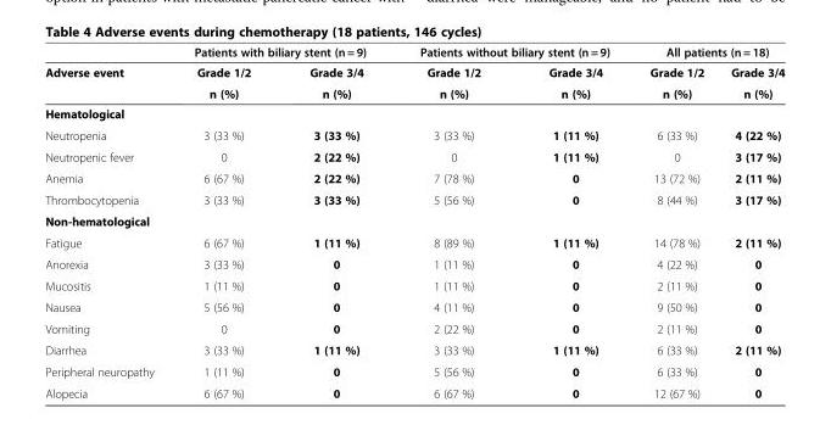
<table><thead><tr><td rowspan="2">Adverse event</td><td colspan="2">Patients with biliary stent (n = 9)</td><td colspan="2">Patients without biliary stent (n = 9)</td><td colspan="2">All patients (n = 18)</td></tr><tr><td>Grade 1/2</td><td>Grade 3/4</td><td>Grade 1/2</td><td>Grade 3/4</td><td>Grade 1/2</td><td>Grade 3/4</td></tr></thead><tbody><tr><td></td><td>n (%)</td><td>n (%)</td><td>n (%)</td><td>n (%)</td><td>n (%)</td><td>n (%)</td></tr><tr><td colspan="7">Hematological</td></tr><tr><td>Neutropenia</td><td>3 (33 %)</td><td>3 (33 %)</td><td>3 (33 %)</td><td>1 (11 %)</td><td>6 (33 %)</td><td>4 (22 %)</td></tr><tr><td>Neutropenic fever</td><td>0</td><td>2 (22 %)</td><td>0</td><td>1 (11 %)</td><td>0</td><td>3 (17 %)</td></tr><tr><td>Anemia</td><td>6 (67 %)</td><td>2 (22 %)</td><td>7 (78 %)</td><td>0</td><td>13 (72 %)</td><td>2 (11 %)</td></tr><tr><td>Thrombocytopenia</td><td>3 (33 %)</td><td>3 (33 %)</td><td>5 (56 %)</td><td>0</td><td>8 (44 %)</td><td>3 (17 %)</td></tr><tr><td colspan="7">Non-hematological</td></tr><tr><td>Fatigue</td><td>6 (67 %)</td><td>1 (11 %)</td><td>8 (89 %)</td><td>1 (11 %)</td><td>14 (78 %)</td><td>2 (11 %)</td></tr><tr><td>Anorexia</td><td>3 (33 %)</td><td>0</td><td>1 (11 %)</td><td>0</td><td>4 (22 %)</td><td>0</td></tr><tr><td>Mucositis</td><td>1 (11 %)</td><td>0</td><td>1 (11 %)</td><td>0</td><td>2 (11 %)</td><td>0</td></tr><tr><td>Nausea</td><td>5 (56 %)</td><td>0</td><td>4 (11 %)</td><td>0</td><td>9 (50 %)</td><td>0</td></tr><tr><td>Vomiting</td><td>0</td><td>0</td><td>2 (22 %)</td><td>0</td><td>2 (11 %)</td><td>0</td></tr><tr><td>Diarrhea</td><td>3 (33 %)</td><td>1 (11 %)</td><td>3 (33 %)</td><td>1 (11 %)</td><td>6 (33 %)</td><td>2 (11 %)</td></tr><tr><td>Peripheral neuropathy</td><td>1 (11 %)</td><td>0</td><td>5 (56 %)</td><td>0</td><td>6 (33 %)</td><td>0</td></tr><tr><td>Alopecia</td><td>6 (67 %)</td><td>0</td><td>6 (67 %)</td><td>0</td><td>12 (67 %)</td><td>0</td></tr></tbody></table>